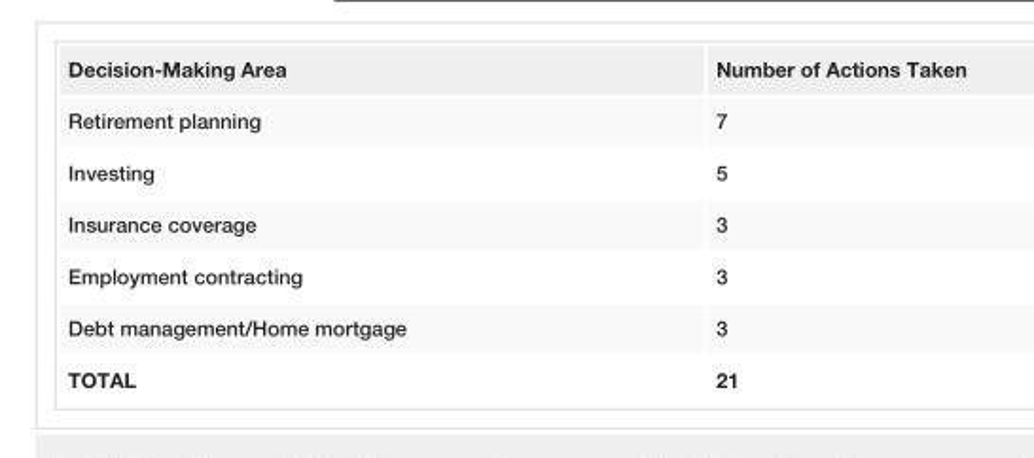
<table><tbody><tr><td>Decision-Making Area</td><td>Number of Actions Taken</td></tr><tr><td>Retirement planning</td><td>7</td></tr><tr><td>Investing</td><td>5</td></tr><tr><td>Insurance coverage</td><td>3</td></tr><tr><td>Employment contracting</td><td>3</td></tr><tr><td>Debt management/Home mortgage</td><td>3</td></tr><tr><td>TOTAL</td><td>21</td></tr></tbody></table>